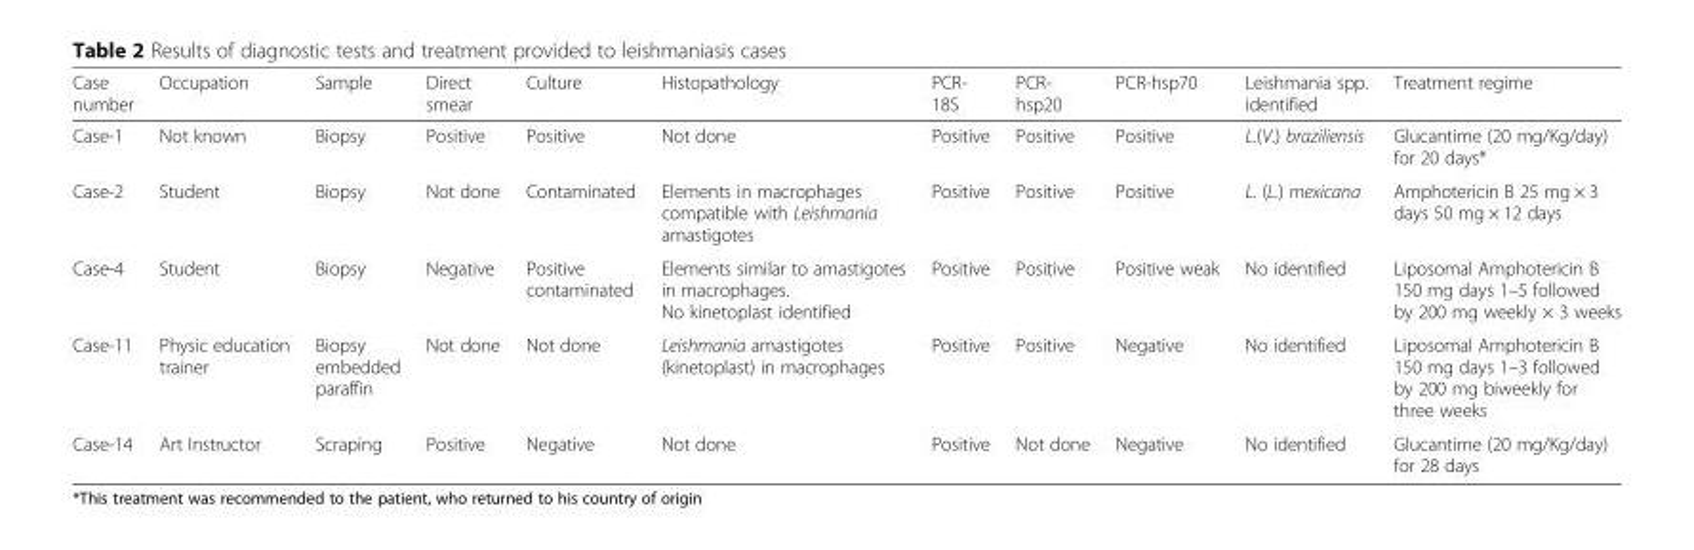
<table><thead><tr><td>Case number</td><td>Occupation</td><td>Sample</td><td>Direct smear</td><td>Culture</td><td>Histopathology</td><td>PCR- 18S</td><td>PCR- hsp20</td><td>PCR-hsp70</td><td>Leishmania spp. identified</td><td>Treatment regime</td></tr></thead><tbody><tr><td>Case-1</td><td>Not known</td><td>Biopsy</td><td>Positive</td><td>Positive</td><td>Not done</td><td>Positive</td><td>Positive</td><td>Positive</td><td>L.(V.) braziliensis</td><td>Glucantime (20 mg/Kg/day) for 20 days*</td></tr><tr><td>Case-2</td><td>Student</td><td>Biopsy</td><td>Not done</td><td>Contaminated</td><td>Elements in macrophages compatible with Leishmania amastigotes</td><td>Positive</td><td>Positive</td><td>Positive</td><td>L. (L.) mexicana</td><td>Amphotericin B 25 mg × 3 days 50 mg × 12 days</td></tr><tr><td>Case-4</td><td>Student</td><td>Biopsy</td><td>Negative</td><td>Positive contaminated</td><td>Elements similar to amastigotes in macrophages. No kinetoplast identified</td><td>Positive</td><td>Positive</td><td>Positive weak</td><td>No identified</td><td>Liposomal Amphotericin B 150 mg days 1–5 followed by 200 mg weekly × 3 weeks</td></tr><tr><td>Case-11</td><td>Physic education trainer</td><td>Biopsy embedded paraffin</td><td>Not done</td><td>Not done</td><td>Leishmania amastigotes (kinetoplast) in macrophages</td><td>Positive</td><td>Positive</td><td>Negative</td><td>No identified</td><td>Liposomal Amphotericin B 150 mg days 1–3 followed by 200 mg biweekly for three weeks</td></tr><tr><td>Case-14</td><td>Art Instructor</td><td>Scraping</td><td>Positive</td><td>Negative</td><td>Not done</td><td>Positive</td><td>Not done</td><td>Negative</td><td>No identified</td><td>Glucantime (20 mg/Kg/day) for 28 days</td></tr></tbody></table>